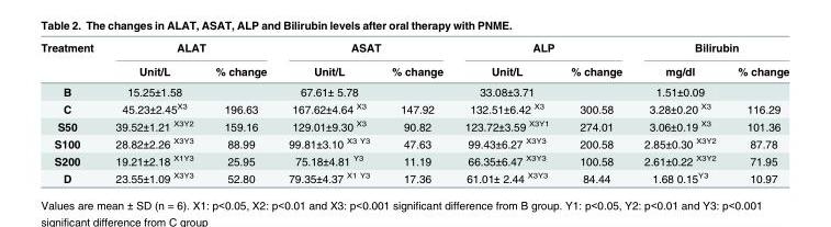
<table><thead><tr><td rowspan="2">Treatment</td><td colspan="2">ALAT</td><td colspan="2">ASAT</td><td colspan="2">ALP</td><td colspan="2">Bilirubin</td></tr><tr><td>Unit/L</td><td>% change</td><td>Unit/L</td><td>% change</td><td>Unit/L</td><td>% change</td><td>mg/dl</td><td>% change</td></tr></thead><tbody><tr><td>B</td><td>15.25±1.58</td><td></td><td>67.61± 5.78</td><td></td><td>33.08±3.71</td><td></td><td>1.51±0.09</td><td></td></tr><tr><td>C</td><td>45.23±2.45<sup>X3</sup></td><td>196.63</td><td>167.62±4.64 <sup>X3</sup></td><td>147.92</td><td>132.51±6.42 <sup>X3</sup></td><td>300.58</td><td>3.28±0.20 <sup>X3</sup></td><td>116.29</td></tr><tr><td>S50</td><td>39.52±1.21 <sup>X3Y2</sup></td><td>159.16</td><td>129.01±9.30 <sup>X3</sup></td><td>90.82</td><td>123.72±3.59 <sup>X3Y1</sup></td><td>274.01</td><td>3.06±0.19 <sup>X3</sup></td><td>101.36</td></tr><tr><td>S100</td><td>28.82±2.26 <sup>X3Y3</sup></td><td>88.99</td><td>99.81±3.10 <sup>X3 Y3</sup></td><td>47.63</td><td>99.43±6.27 <sup>X3Y3</sup></td><td>200.58</td><td>2.85±0.30 <sup>X3Y2</sup></td><td>87.78</td></tr><tr><td>S200</td><td>19.21±2.18 <sup>X1Y3</sup></td><td>25.95</td><td>75.18±4.81 <sup>Y3</sup></td><td>11.19</td><td>66.35±6.47 <sup>X3Y3</sup></td><td>100.58</td><td>2.61±0.22 <sup>X3Y2</sup></td><td>71.95</td></tr><tr><td>D</td><td>23.55±1.09 <sup>X3Y3</sup></td><td>52.80</td><td>79.35±4.37 <sup>X1 Y3</sup></td><td>17.36</td><td>61.01± 2.44 <sup>X3Y3</sup></td><td>84.44</td><td>1.68 0.15<sup>Y3</sup></td><td>10.97</td></tr></tbody></table>